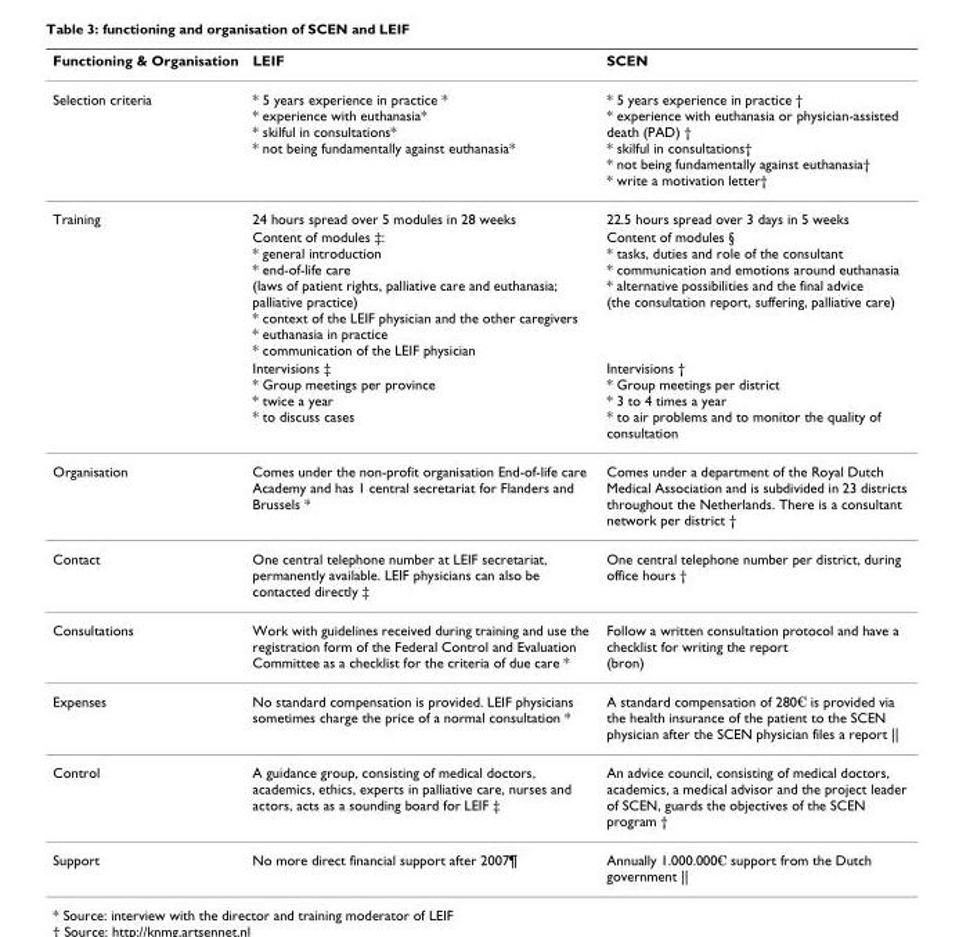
<table><thead><tr><td>Functioning &amp; Organisation</td><td>LEIF</td><td>SCEN</td></tr></thead><tbody><tr><td>Selection criteria</td><td>* 5 years experience in practice * * experience with euthanasia* * skilful in consultations* * not being fundamentally against euthanasia*</td><td>* 5 years experience in practice † * experience with euthanasia or physician-assisted death (PAD) † * skilful in consultations† * not being fundamentally against euthanasia† * write a motivation letter†</td></tr><tr><td rowspan="3">Training</td><td>24 hours spread over 5 modules in 28 weeks</td><td>22.5 hours spread over 3 days in 5 weeks</td></tr><tr><td>Content of modules ‡: * general introduction * end-of-life care (laws of patient rights, palliative care and euthanasia; palliative practice) * context of the LEIF physician and the other caregivers * euthanasia in practice * communication of the LEIF physician</td><td>Content of modules § * tasks, duties and role of the consultant * communication and emotions around euthanasia * alternative possibilities and the final advice (the consultation report, suffering, palliative care)</td></tr><tr><td>Intervisions ‡ * Group meetings per province * twice a year * to discuss cases</td><td>Intervisions † * Group meetings per district * 3 to 4 times a year * to air problems and to monitor the quality of consultation</td></tr><tr><td>Organisation</td><td>Comes under the non-profit organisation End-of-life care Academy and has 1 central secretariat for Flanders and Brussels *</td><td>Comes under a department of the Royal Dutch Medical Association and is subdivided in 23 districts throughout the Netherlands. There is a consultant network per district †</td></tr><tr><td>Contact</td><td>One central telephone number at LEIF secretariat, permanently available. LEIF physicians can also be contacted directly ‡</td><td>One central telephone number per district, during office hours †</td></tr><tr><td>Consultations</td><td>Work with guidelines received during training and use the registration form of the Federal Control and Evaluation Committee as a checklist for the criteria of due care *</td><td>Follow a written consultation protocol and have a checklist for writing the report (bron)</td></tr><tr><td>Expenses</td><td>No standard compensation is provided. LEIF physicians sometimes charge the price of a normal consultation *</td><td>A standard compensation of 280€ is provided via the health insurance of the patient to the SCEN physician after the SCEN physician files a report ||</td></tr><tr><td>Control</td><td>A guidance group, consisting of medical doctors, academics, ethics, experts in palliative care, nurses and actors, acts as a sounding board for LEIF ‡</td><td>An advice council, consisting of medical doctors, academics, a medical advisor and the project leader of SCEN, guards the objectives of the SCEN program †</td></tr><tr><td>Support</td><td>No more direct financial support after 2007¶</td><td>Annually 1.000.000€ support from the Dutch government ||</td></tr></tbody></table>